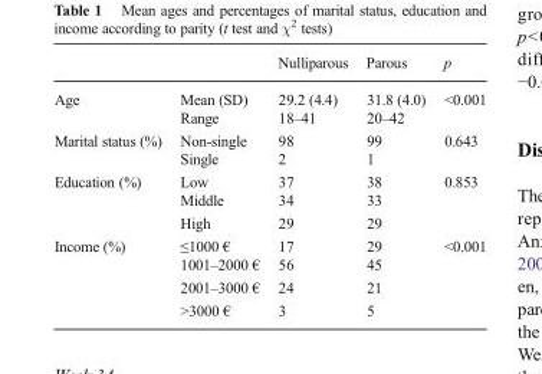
<table><thead><tr><td></td><td></td><td>Nulliparous</td><td>Parous</td><td>p</td></tr></thead><tbody><tr><td rowspan="2">Age</td><td>Mean (SD)</td><td>29.2 (4.4)</td><td>31.8 (4.0)</td><td rowspan="2">&lt;0.001</td></tr><tr><td>Range</td><td>18–41</td><td>20–42</td></tr><tr><td rowspan="2">Marital status (%)</td><td>Non-single</td><td>98</td><td>99</td><td rowspan="2">0.643</td></tr><tr><td>Single</td><td>2</td><td>1</td></tr><tr><td rowspan="3">Education (%)</td><td>Low</td><td>37</td><td>38</td><td rowspan="3">0.853</td></tr><tr><td>Middle</td><td>34</td><td>33</td></tr><tr><td>High</td><td>29</td><td>29</td></tr><tr><td rowspan="4">Income (%)</td><td>≤1000 €</td><td>17</td><td>29</td><td rowspan="4">&lt;0.001</td></tr><tr><td>1001–2000 €</td><td>56</td><td>45</td></tr><tr><td>2001–3000 €</td><td>24</td><td>21</td></tr><tr><td>&gt;3000 €</td><td>3</td><td>5</td></tr></tbody></table>